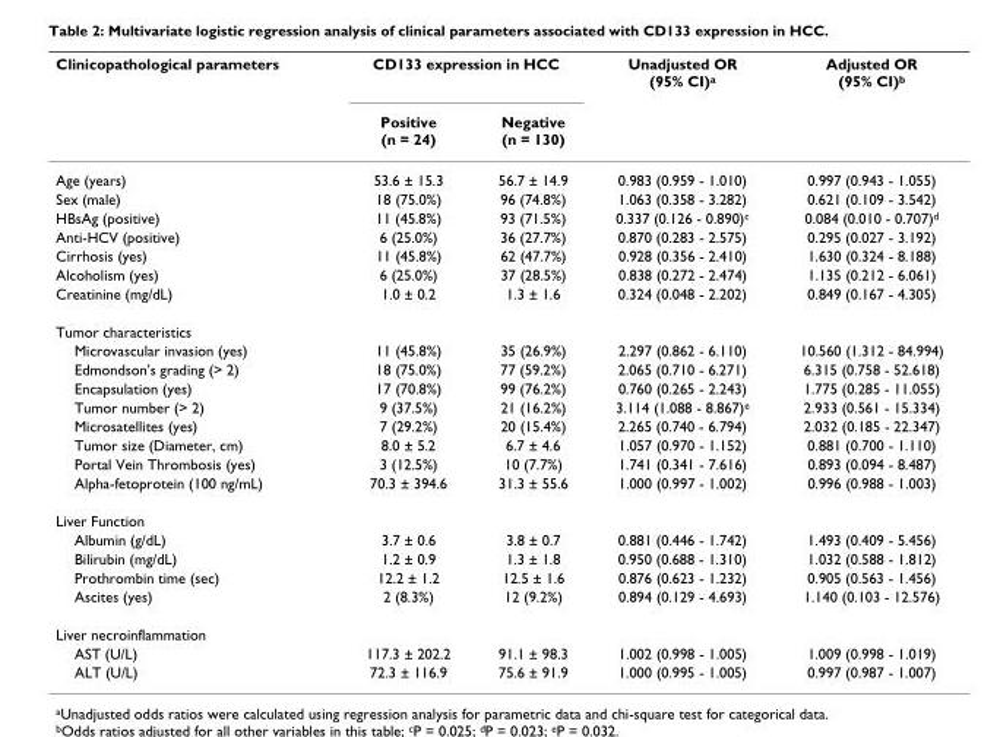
<table><thead><tr><td rowspan="2">Clinicopathological parameters</td><td colspan="2">CD133 expression in HCC</td><td rowspan="2">Unadjusted OR (95% CI)<sup>a</sup></td><td rowspan="2">Adjusted OR (95% CI)<sup>b</sup></td></tr><tr><td>Positive (n = 24)</td><td>Negative (n = 130)</td></tr></thead><tbody><tr><td>Age (years)</td><td>53.6 ± 15.3</td><td>56.7 ± 14.9</td><td>0.983 (0.959 - 1.010)</td><td>0.997 (0.943 - 1.055)</td></tr><tr><td>Sex (male)</td><td>18 (75.0%)</td><td>96 (74.8%)</td><td>1.063 (0.358 - 3.282)</td><td>0.621 (0.109 - 3.542)</td></tr><tr><td>HBsAg (positive)</td><td>11 (45.8%)</td><td>93 (71.5%)</td><td>0.337 (0.126 - 0.890)<sup>c</sup></td><td>0.084 (0.010 - 0.707)<sup>d</sup></td></tr><tr><td>Anti-HCV (positive)</td><td>6 (25.0%)</td><td>36 (27.7%)</td><td>0.870 (0.283 - 2.575)</td><td>0.295 (0.027 - 3.192)</td></tr><tr><td>Cirrhosis (yes)</td><td>11 (45.8%)</td><td>62 (47.7%)</td><td>0.928 (0.356 - 2.410)</td><td>1.630 (0.324 - 8.188)</td></tr><tr><td>Alcoholism (yes)</td><td>6 (25.0%)</td><td>37 (28.5%)</td><td>0.838 (0.272 - 2.474)</td><td>1.135 (0.212 - 6.061)</td></tr><tr><td>Creatinine (mg/dL)</td><td>1.0 ± 0.2</td><td>1.3 ± 1.6</td><td>0.324 (0.048 - 2.202)</td><td>0.849 (0.167 - 4.305)</td></tr><tr><td colspan="5">Tumor characteristics</td></tr><tr><td>Microvascular invasion (yes)</td><td>11 (45.8%)</td><td>35 (26.9%)</td><td>2.297 (0.862 - 6.110)</td><td>10.560 (1.312 - 84.994)</td></tr><tr><td>Edmondson&#x27;s grading (&gt; 2)</td><td>18 (75.0%)</td><td>77 (59.2%)</td><td>2.065 (0.710 - 6.271)</td><td>6.315 (0.758 - 52.618)</td></tr><tr><td>Encapsulation (yes)</td><td>17 (70.8%)</td><td>99 (76.2%)</td><td>0.760 (0.265 - 2.243)</td><td>1.775 (0.285 - 11.055)</td></tr><tr><td>Tumor number (&gt; 2)</td><td>9 (37.5%)</td><td>21 (16.2%)</td><td>3.114 (1.088 - 8.867)<sup>e</sup></td><td>2.933 (0.561 - 15.334)</td></tr><tr><td>Microsatellites (yes)</td><td>7 (29.2%)</td><td>20 (15.4%)</td><td>2.265 (0.740 - 6.794)</td><td>2.032 (0.185 - 22.347)</td></tr><tr><td>Tumor size (Diameter, cm)</td><td>8.0 ± 5.2</td><td>6.7 ± 4.6</td><td>1.057 (0.970 - 1.152)</td><td>0.881 (0.700 - 1.110)</td></tr><tr><td>Portal Vein Thrombosis (yes)</td><td>3 (12.5%)</td><td>10 (7.7%)</td><td>1.741 (0.341 - 7.616)</td><td>0.893 (0.094 - 8.487)</td></tr><tr><td>Alpha-fetoprotein (100 ng/mL)</td><td>70.3 ± 394.6</td><td>31.3 ± 55.6</td><td>1.000 (0.997 - 1.002)</td><td>0.996 (0.988 - 1.003)</td></tr><tr><td colspan="5">Liver Function</td></tr><tr><td>Albumin (g/dL)</td><td>3.7 ± 0.6</td><td>3.8 ± 0.7</td><td>0.881 (0.446 - 1.742)</td><td>1.493 (0.409 - 5.456)</td></tr><tr><td>Bilirubin (mg/dL)</td><td>1.2 ± 0.9</td><td>1.3 ± 1.8</td><td>0.950 (0.688 - 1.310)</td><td>1.032 (0.588 - 1.812)</td></tr><tr><td>Prothrombin time (sec)</td><td>12.2 ± 1.2</td><td>12.5 ± 1.6</td><td>0.876 (0.623 - 1.232)</td><td>0.905 (0.563 - 1.456)</td></tr><tr><td>Ascites (yes)</td><td>2 (8.3%)</td><td>12 (9.2%)</td><td>0.894 (0.129 - 4.693)</td><td>1.140 (0.103 - 12.576)</td></tr><tr><td colspan="5">Liver necroinflammation</td></tr><tr><td>AST (U/L)</td><td>117.3 ± 202.2</td><td>91.1 ± 98.3</td><td>1.002 (0.998 - 1.005)</td><td>1.009 (0.998 - 1.019)</td></tr><tr><td>ALT (U/L)</td><td>72.3 ± 116.9</td><td>75.6 ± 91.9</td><td>1.000 (0.995 - 1.005)</td><td>0.997 (0.987 - 1.007)</td></tr></tbody></table>